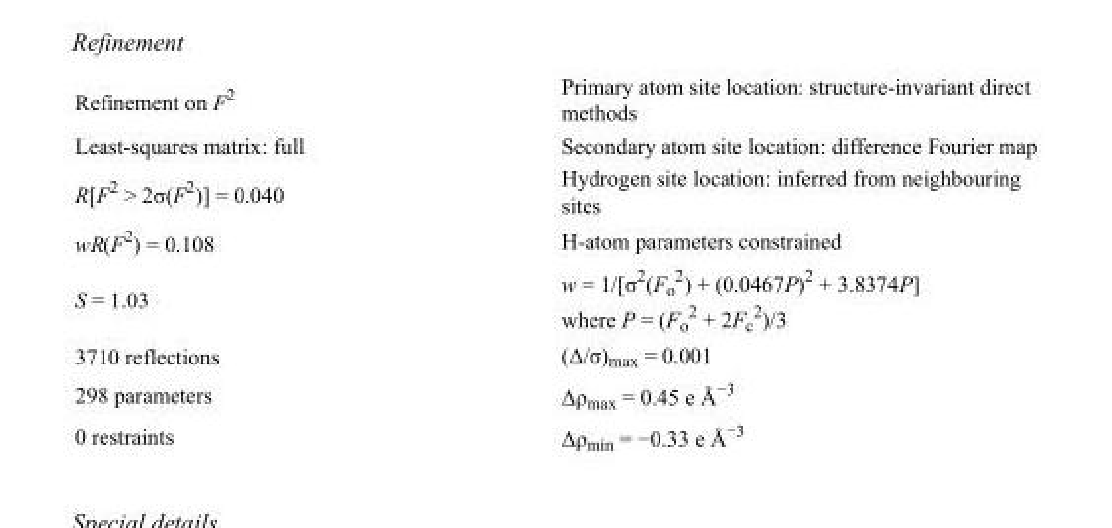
<table><tbody><tr><td>Refinement on F<sup>2</sup></td><td>Primary atom site location: structure-invariant direct methods</td></tr><tr><td>Least-squares matrix: full</td><td>Secondary atom site location: difference Fourier map</td></tr><tr><td>R[F<sup>2</sup> &gt; 2σ(F<sup>2</sup>)] = 0.040</td><td>Hydrogen site location: inferred from neighbouring sites</td></tr><tr><td>wR(F<sup>2</sup>) = 0.108</td><td>H-atom parameters constrained</td></tr><tr><td>S = 1.03</td><td>w = 1/[σ<sup>2</sup>(F<sub>o</sub> <sup>2</sup>) + (0.0467P)<sup>2</sup> + 3.8374P] where P = (F<sub>o</sub> <sup>2</sup> + 2F<sub>c</sub> <sup>2</sup>)/3</td></tr><tr><td>3710 reflections</td><td>(Δ/σ)<sub>max</sub> = 0.001</td></tr><tr><td>298 parameters</td><td>Δρ<sub>max</sub> = 0.45 e Å<sup>−3</sup></td></tr><tr><td>0 restraints</td><td>Δρ<sub>min</sub> = −0.33 e Å<sup>−3</sup></td></tr></tbody></table>